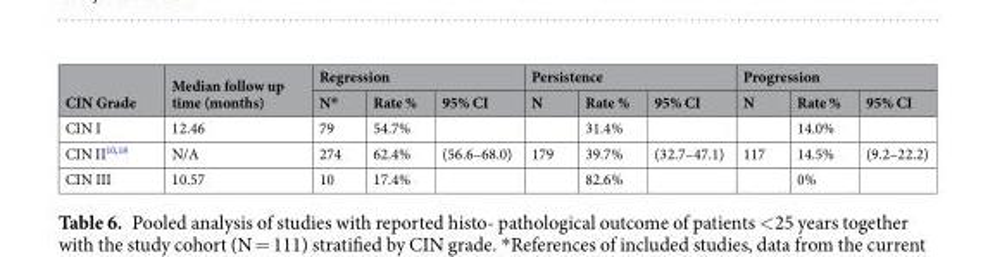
<table><thead><tr><td rowspan="2">CIN Grade</td><td rowspan="2">Median follow up time (months)</td><td colspan="3">Regression</td><td colspan="3">Persistence</td><td colspan="3">Progression</td></tr><tr><td>N*</td><td>Rate %</td><td>95% CI</td><td>N</td><td>Rate %</td><td>95% CI</td><td>N</td><td>Rate %</td><td>95% CI</td></tr></thead><tbody><tr><td>CIN I</td><td>12.46</td><td>79</td><td>54.7%</td><td></td><td></td><td>31.4%</td><td></td><td></td><td>14.0%</td><td></td></tr><tr><td>CIN II<sup>10,18</sup></td><td>N/A</td><td>274</td><td>62.4%</td><td>(56.6–68.0)</td><td>179</td><td>39.7%</td><td>(32.7–47.1)</td><td>117</td><td>14.5%</td><td>(9.2–22.2)</td></tr><tr><td>CIN III</td><td>10.57</td><td>10</td><td>17.4%</td><td></td><td></td><td>82.6%</td><td></td><td></td><td>0%</td><td></td></tr></tbody></table>